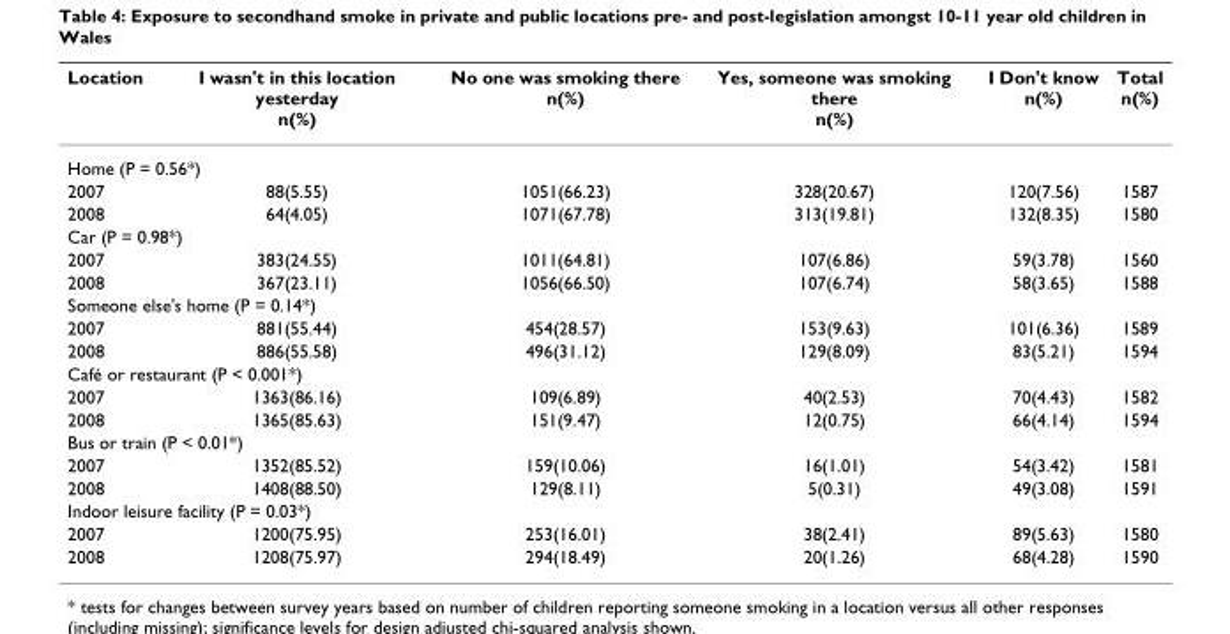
<table><thead><tr><td>Location</td><td>I wasn&#x27;t in this location yesterday n(%)</td><td>No one was smoking there n(%)</td><td>Yes, someone was smoking there n(%)</td><td>I Don&#x27;t know n(%)</td><td>Total n(%)</td></tr></thead><tbody><tr><td colspan="6">Home (P = 0.56*)</td></tr><tr><td>2007</td><td>88(5.55)</td><td>1051(66.23)</td><td>328(20.67)</td><td>120(7.56)</td><td>1587</td></tr><tr><td>2008</td><td>64(4.05)</td><td>1071(67.78)</td><td>313(19.81)</td><td>132(8.35)</td><td>1580</td></tr><tr><td colspan="6">Car (P = 0.98*)</td></tr><tr><td>2007</td><td>383(24.55)</td><td>1011(64.81)</td><td>107(6.86)</td><td>59(3.78)</td><td>1560</td></tr><tr><td>2008</td><td>367(23.11)</td><td>1056(66.50)</td><td>107(6.74)</td><td>58(3.65)</td><td>1588</td></tr><tr><td colspan="6">Someone else&#x27;s home (P = 0.14*)</td></tr><tr><td>2007</td><td>881(55.44)</td><td>454(28.57)</td><td>153(9.63)</td><td>101(6.36)</td><td>1589</td></tr><tr><td>2008</td><td>886(55.58)</td><td>496(31.12)</td><td>129(8.09)</td><td>83(5.21)</td><td>1594</td></tr><tr><td colspan="6">Café or restaurant (P &lt; 0.001*)</td></tr><tr><td>2007</td><td>1363(86.16)</td><td>109(6.89)</td><td>40(2.53)</td><td>70(4.43)</td><td>1582</td></tr><tr><td>2008</td><td>1365(85.63)</td><td>151(9.47)</td><td>12(0.75)</td><td>66(4.14)</td><td>1594</td></tr><tr><td colspan="6">Bus or train (P &lt; 0.01*)</td></tr><tr><td>2007</td><td>1352(85.52)</td><td>159(10.06)</td><td>16(1.01)</td><td>54(3.42)</td><td>1581</td></tr><tr><td>2008</td><td>1408(88.50)</td><td>129(8.11)</td><td>5(0.31)</td><td>49(3.08)</td><td>1591</td></tr><tr><td colspan="6">Indoor leisure facility (P = 0.03*)</td></tr><tr><td>2007</td><td>1200(75.95)</td><td>253(16.01)</td><td>38(2.41)</td><td>89(5.63)</td><td>1580</td></tr><tr><td>2008</td><td>1208(75.97)</td><td>294(18.49)</td><td>20(1.26)</td><td>68(4.28)</td><td>1590</td></tr></tbody></table>